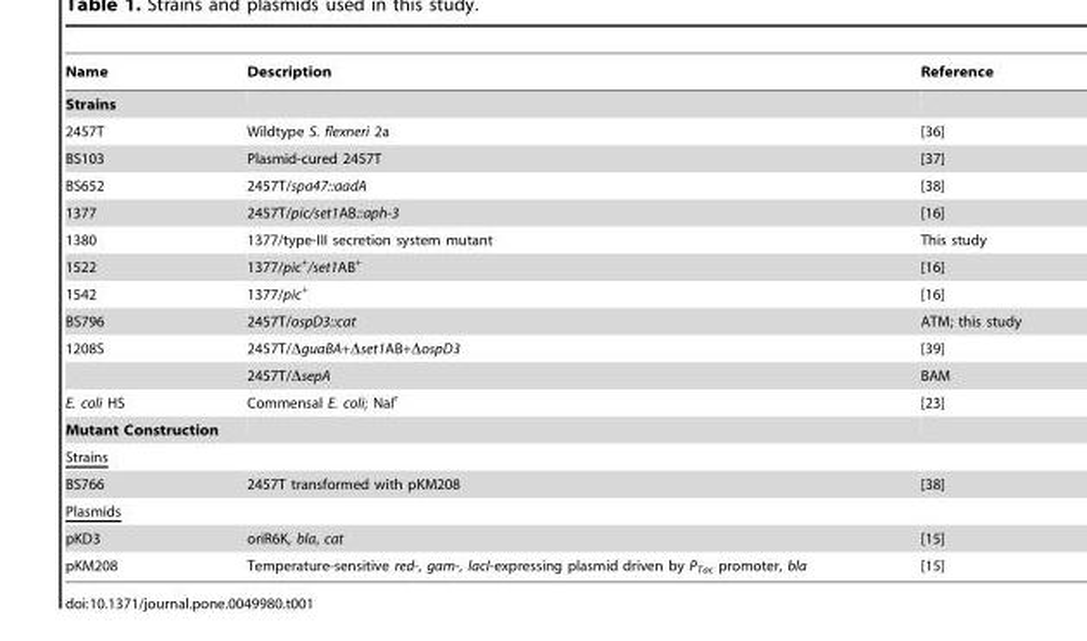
<table><thead><tr><td>Name</td><td>Description</td><td>Reference</td></tr></thead><tbody><tr><td colspan="3">Strains</td></tr><tr><td>2457T</td><td>Wildtype S. flexneri 2a</td><td>[36]</td></tr><tr><td>BS103</td><td>Plasmid-cured 2457T</td><td>[37]</td></tr><tr><td>BS652</td><td>2457T/spa47::aadA</td><td>[38]</td></tr><tr><td>1377</td><td>2457T/pic/set1AB::aph-3</td><td>[16]</td></tr><tr><td>1380</td><td>1377/type-III secretion system mutant</td><td>This study</td></tr><tr><td>1522</td><td>1377/pic<sup>+</sup>/set1AB<sup>+</sup></td><td>[16]</td></tr><tr><td>1542</td><td>1377/pic<sup>+</sup></td><td>[16]</td></tr><tr><td>BS796</td><td>2457T/ospD3::cat</td><td>ATM; this study</td></tr><tr><td rowspan="2">1208S</td><td>2457T/ΔguaBA+Δset1AB+ΔospD3</td><td>[39]</td></tr><tr><td>2457T/ΔsepA</td><td>BAM</td></tr><tr><td>E. coli HS</td><td>Commensal E. coli; NaI<sup>r</sup></td><td>[23]</td></tr><tr><td colspan="3">Mutant Construction</td></tr><tr><td colspan="3">Strains</td></tr><tr><td>BS766</td><td>2457T transformed with pKM208</td><td>[38]</td></tr><tr><td colspan="3">Plasmids</td></tr><tr><td>pKD3</td><td>oriR6K, bla, cat</td><td>[15]</td></tr><tr><td>pKM208</td><td>Temperature-sensitive red-, gam-, lacI-expressing plasmid driven by P<sub>Tac</sub> promoter, bla</td><td>[15]</td></tr></tbody></table>